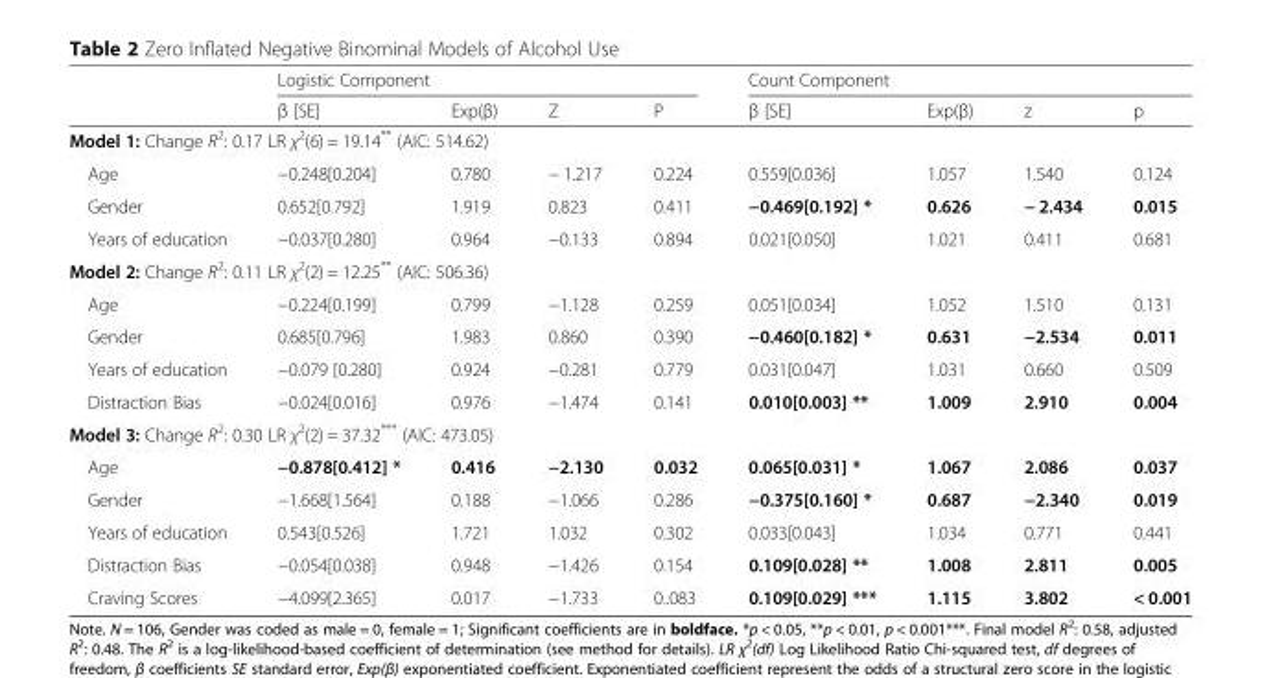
<table><thead><tr><td rowspan="2"></td><td colspan="4">Logistic Component</td><td colspan="4">Count Component</td></tr><tr><td>β [SE]</td><td>Exp(β)</td><td>Z</td><td>P</td><td>β [SE]</td><td>Exp(β)</td><td>z</td><td>p</td></tr></thead><tbody><tr><td colspan="9">Model 1: Change R<sup>2</sup>: 0.17 LR χ<sup>2</sup>(6) = 19.14** (AIC: 514.62)</td></tr><tr><td>Age</td><td>−0.248[0.204]</td><td>0.780</td><td>− 1.217</td><td>0.224</td><td>0.559[0.036]</td><td>1.057</td><td>1.540</td><td>0.124</td></tr><tr><td>Gender</td><td>0.652[0.792]</td><td>1.919</td><td>0.823</td><td>0.411</td><td>−0.469[0.192] *</td><td>0.626</td><td>− 2.434</td><td>0.015</td></tr><tr><td>Years of education</td><td>−0.037[0.280]</td><td>0.964</td><td>−0.133</td><td>0.894</td><td>0.021[0.050]</td><td>1.021</td><td>0.411</td><td>0.681</td></tr><tr><td colspan="9">Model 2: Change R<sup>2</sup>: 0.11 LR χ<sup>2</sup>(2) = 12.25** (AIC: 506.36)</td></tr><tr><td>Age</td><td>−0.224[0.199]</td><td>0.799</td><td>−1.128</td><td>0.259</td><td>0.051[0.034]</td><td>1.052</td><td>1.510</td><td>0.131</td></tr><tr><td>Gender</td><td>0.685[0.796]</td><td>1.983</td><td>0.860</td><td>0.390</td><td>−0.460[0.182] *</td><td>0.631</td><td>−2.534</td><td>0.011</td></tr><tr><td>Years of education</td><td>−0.079 [0.280]</td><td>0.924</td><td>−0.281</td><td>0.779</td><td>0.031[0.047]</td><td>1.031</td><td>0.660</td><td>0.509</td></tr><tr><td>Distraction Bias</td><td>−0.024[0.016]</td><td>0.976</td><td>−1.474</td><td>0.141</td><td>0.010[0.003] **</td><td>1.009</td><td>2.910</td><td>0.004</td></tr><tr><td colspan="9">Model 3: Change R<sup>2</sup>: 0.30 LR χ<sup>2</sup>(2) = 37.32*** (AIC: 473.05)</td></tr><tr><td>Age</td><td>−0.878[0.412] *</td><td>0.416</td><td>−2.130</td><td>0.032</td><td>0.065[0.031] *</td><td>1.067</td><td>2.086</td><td>0.037</td></tr><tr><td>Gender</td><td>−1.668[1.564]</td><td>0.188</td><td>−1.066</td><td>0.286</td><td>−0.375[0.160] *</td><td>0.687</td><td>−2.340</td><td>0.019</td></tr><tr><td>Years of education</td><td>0.543[0.526]</td><td>1.721</td><td>1.032</td><td>0.302</td><td>0.033[0.043]</td><td>1.034</td><td>0.771</td><td>0.441</td></tr><tr><td>Distraction Bias</td><td>−0.054[0.038]</td><td>0.948</td><td>−1.426</td><td>0.154</td><td>0.109[0.028] **</td><td>1.008</td><td>2.811</td><td>0.005</td></tr><tr><td>Craving Scores</td><td>−4.099[2.365]</td><td>0.017</td><td>−1.733</td><td>0..083</td><td>0.109[0.029] ***</td><td>1.115</td><td>3.802</td><td>&lt; 0.001</td></tr></tbody></table>